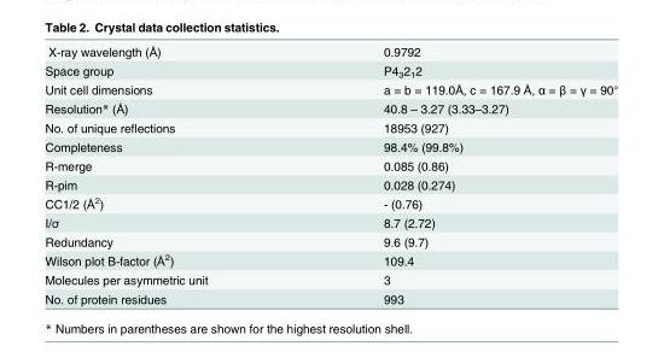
<table><tbody><tr><td>X-ray wavelength (Å)</td><td>0.9792</td></tr><tr><td>Space group</td><td>P4<sub>3</sub>2<sub>1</sub>2</td></tr><tr><td>Unit cell dimensions</td><td>a = b = 119.0Å, c = 167.9 Å, α = β = γ = 90°</td></tr><tr><td>Resolution* (Å)</td><td>40.8 – 3.27 (3.33–3.27)</td></tr><tr><td>No. of unique reflections</td><td>18953 (927)</td></tr><tr><td>Completeness</td><td>98.4% (99.8%)</td></tr><tr><td>R-merge</td><td>0.085 (0.86)</td></tr><tr><td>R-pim</td><td>0.028 (0.274)</td></tr><tr><td>CC1/2 (Å<sup>2</sup>)</td><td>- (0.76)</td></tr><tr><td>I/σ</td><td>8.7 (2.72)</td></tr><tr><td>Redundancy</td><td>9.6 (9.7)</td></tr><tr><td>Wilson plot B-factor (Å<sup>2</sup>)</td><td>109.4</td></tr><tr><td>Molecules per asymmetric unit</td><td>3</td></tr><tr><td>No. of protein residues</td><td>993</td></tr></tbody></table>